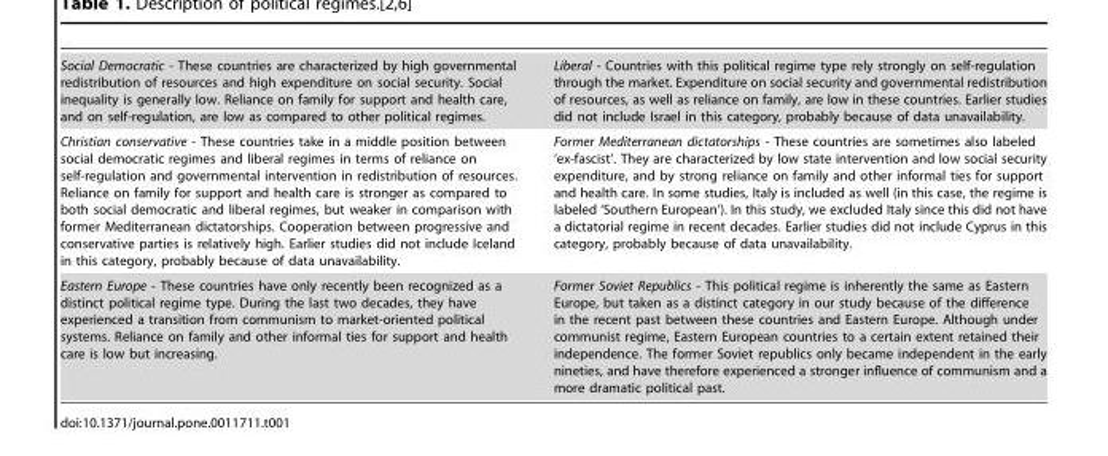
<table><tbody><tr><td>Social Democratic - These countries are characterized by high governmental redistribution of resources and high expenditure on social security. Social inequality is generally low. Reliance on family for support and health care, and on self-regulation, are low as compared to other political regimes.</td><td>Liberal - Countries with this political regime type rely strongly on self-regulation through the market. Expenditure on social security and governmental redistribution of resources, as well as reliance on family, are low in these countries. Earlier studies did not include Israel in this category, probably because of data unavailability.</td></tr><tr><td>Christian conservative - These countries take in a middle position between social democratic regimes and liberal regimes in terms of reliance on self-regulation and governmental intervention in redistribution of resources. Reliance on family for support and health care is stronger as compared to both social democratic and liberal regimes, but weaker in comparison with former Mediterranean dictatorships. Cooperation between progressive and conservative parties is relatively high. Earlier studies did not include Iceland in this category, probably because of data unavailability.</td><td>Former Mediterranean dictatorships - These countries are sometimes also labeled ‘ex-fascist’. They are characterized by low state intervention and low social security expenditure, and by strong reliance on family and other informal ties for support and health care. In some studies, Italy is included as well (in this case, the regime is labeled ‘Southern European’). In this study, we excluded Italy since this did not have a dictatorial regime in recent decades. Earlier studies did not include Cyprus in this category, probably because of data unavailability.</td></tr><tr><td>Eastern Europe - These countries have only recently been recognized as a distinct political regime type. During the last two decades, they have experienced a transition from communism to market-oriented political systems. Reliance on family and other informal ties for support and health care is low but increasing.</td><td>Former Soviet Republics - This political regime is inherently the same as Eastern Europe, but taken as a distinct category in our study because of the difference in the recent past between these countries and Eastern Europe. Although under communist regime, Eastern European countries to a certain extent retained their independence. The former Soviet republics only became independent in the early nineties, and have therefore experienced a stronger influence of communism and a more dramatic political past.</td></tr></tbody></table>